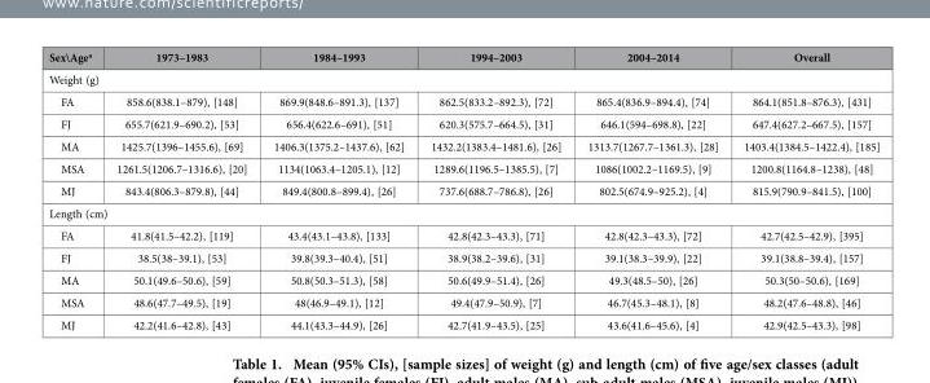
<table><thead><tr><td>Sex\Age<sup>a</sup></td><td>1973–1983</td><td>1984–1993</td><td>1994–2003</td><td>2004–2014</td><td>Overall</td></tr></thead><tbody><tr><td colspan="6">Weight (g)</td></tr><tr><td>FA</td><td>858.6(838.1–879), [148]</td><td>869.9(848.6–891.3), [137]</td><td>862.5(833.2–892.3), [72]</td><td>865.4(836.9–894.4), [74]</td><td>864.1(851.8–876.3), [431]</td></tr><tr><td>FJ</td><td>655.7(621.9–690.2), [53]</td><td>656.4(622.6–691), [51]</td><td>620.3(575.7–664.5), [31]</td><td>646.1(594–698.8), [22]</td><td>647.4(627.2–667.5), [157]</td></tr><tr><td>MA</td><td>1425.7(1396–1455.6), [69]</td><td>1406.3(1375.2–1437.6), [62]</td><td>1432.2(1383.4–1481.6), [26]</td><td>1313.7(1267.7–1361.3), [28]</td><td>1403.4(1384.5–1422.4), [185]</td></tr><tr><td>MSA</td><td>1261.5(1206.7–1316.6), [20]</td><td>1134(1063.4–1205.1), [12]</td><td>1289.6(1196.5–1385.5), [7]</td><td>1086(1002.2–1169.5), [9]</td><td>1200.8(1164.8–1238), [48]</td></tr><tr><td>MJ</td><td>843.4(806.3–879.8), [44]</td><td>849.4(800.8–899.4), [26]</td><td>737.6(688.7–786.8), [26]</td><td>802.5(674.9–925.2), [4]</td><td>815.9(790.9–841.5), [100]</td></tr><tr><td colspan="6">Length (cm)</td></tr><tr><td>FA</td><td>41.8(41.5–42.2), [119]</td><td>43.4(43.1–43.8), [133]</td><td>42.8(42.3–43.3), [71]</td><td>42.8(42.3–43.3), [72]</td><td>42.7(42.5–42.9), [395]</td></tr><tr><td>FJ</td><td>38.5(38–39.1), [53]</td><td>39.8(39.3–40.4), [51]</td><td>38.9(38.2–39.6), [31]</td><td>39.1(38.3–39.9), [22]</td><td>39.1(38.8–39.4), [157]</td></tr><tr><td>MA</td><td>50.1(49.6–50.6), [59]</td><td>50.8(50.3–51.3), [58]</td><td>50.6(49.9–51.4), [26]</td><td>49.3(48.5–50), [26]</td><td>50.3(50–50.6), [169]</td></tr><tr><td>MSA</td><td>48.6(47.7–49.5), [19]</td><td>48(46.9–49.1), [12]</td><td>49.4(47.9–50.9), [7]</td><td>46.7(45.3–48.1), [8]</td><td>48.2(47.6–48.8), [46]</td></tr><tr><td>MJ</td><td>42.2(41.6–42.8), [43]</td><td>44.1(43.3–44.9), [26]</td><td>42.7(41.9–43.5), [25]</td><td>43.6(41.6–45.6), [4]</td><td>42.9(42.5–43.3), [98]</td></tr></tbody></table>